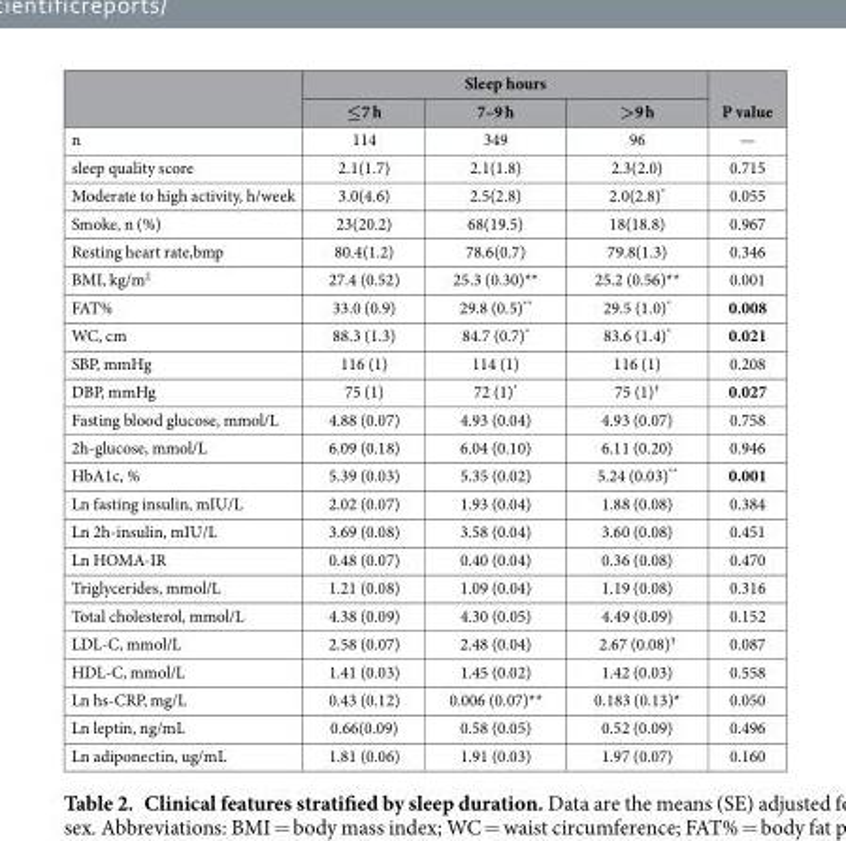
<table><thead><tr><td rowspan="2"></td><td colspan="3">Sleep hours</td><td rowspan="2">P value</td></tr><tr><td>≤7 h</td><td>7–9 h</td><td>&gt;9 h</td></tr></thead><tbody><tr><td>n</td><td>114</td><td>349</td><td>96</td><td>—</td></tr><tr><td>sleep quality score</td><td>2.1(1.7)</td><td>2.1(1.8)</td><td>2.3(2.0)</td><td>0.715</td></tr><tr><td>Moderate to high activity, h/week</td><td>3.0(4.6)</td><td>2.5(2.8)</td><td>2.0(2.8)*</td><td>0.055</td></tr><tr><td>Smoke, n (%)</td><td>23(20.2)</td><td>68(19.5)</td><td>18(18.8)</td><td>0.967</td></tr><tr><td>Resting heart rate,bmp</td><td>80.4(1.2)</td><td>78.6(0.7)</td><td>79.8(1.3)</td><td>0.346</td></tr><tr><td>BMI, kg/m<sup>2</sup></td><td>27.4 (0.52)</td><td>25.3 (0.30)**</td><td>25.2 (0.56)**</td><td>0.001</td></tr><tr><td>FAT%</td><td>33.0 (0.9)</td><td>29.8 (0.5)**</td><td>29.5 (1.0)*</td><td>0.008</td></tr><tr><td>WC, cm</td><td>88.3 (1.3)</td><td>84.7 (0.7)*</td><td>83.6 (1.4)*</td><td>0.021</td></tr><tr><td>SBP, mmHg</td><td>116 (1)</td><td>114 (1)</td><td>116 (1)</td><td>0.208</td></tr><tr><td>DBP, mmHg</td><td>75 (1)</td><td>72 (1)*</td><td>75 (1)<sup>†</sup></td><td>0.027</td></tr><tr><td>Fasting blood glucose, mmol/L</td><td>4.88 (0.07)</td><td>4.93 (0.04)</td><td>4.93 (0.07)</td><td>0.758</td></tr><tr><td>2h-glucose, mmol/L</td><td>6.09 (0.18)</td><td>6.04 (0.10)</td><td>6.11 (0.20)</td><td>0.946</td></tr><tr><td>HbA1c, %</td><td>5.39 (0.03)</td><td>5.35 (0.02)</td><td>5.24 (0.03)**</td><td>0.001</td></tr><tr><td>Ln fasting insulin, mIU/L</td><td>2.02 (0.07)</td><td>1.93 (0.04)</td><td>1.88 (0.08)</td><td>0.384</td></tr><tr><td>Ln 2h-insulin, mIU/L</td><td>3.69 (0.08)</td><td>3.58 (0.04)</td><td>3.60 (0.08)</td><td>0.451</td></tr><tr><td>Ln HOMA-IR</td><td>0.48 (0.07)</td><td>0.40 (0.04)</td><td>0.36 (0.08)</td><td>0.470</td></tr><tr><td>Triglycerides, mmol/L</td><td>1.21 (0.08)</td><td>1.09 (0.04)</td><td>1.19 (0.08)</td><td>0.316</td></tr><tr><td>Total cholesterol, mmol/L</td><td>4.38 (0.09)</td><td>4.30 (0.05)</td><td>4.49 (0.09)</td><td>0.152</td></tr><tr><td>LDL-C, mmol/L</td><td>2.58 (0.07)</td><td>2.48 (0.04)</td><td>2.67 (0.08)<sup>†</sup></td><td>0.087</td></tr><tr><td>HDL-C, mmol/L</td><td>1.41 (0.03)</td><td>1.45 (0.02)</td><td>1.42 (0.03)</td><td>0.558</td></tr><tr><td>Ln hs-CRP, mg/L</td><td>0.43 (0.12)</td><td>0.006 (0.07)**</td><td>0.183 (0.13)*</td><td>0.050</td></tr><tr><td>Ln leptin, ng/mL</td><td>0.66(0.09)</td><td>0.58 (0.05)</td><td>0.52 (0.09)</td><td>0.496</td></tr><tr><td>Ln adiponectin, ug/mL</td><td>1.81 (0.06)</td><td>1.91 (0.03)</td><td>1.97 (0.07)</td><td>0.160</td></tr></tbody></table>